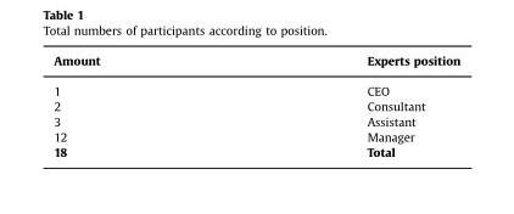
<table><thead><tr><td>Amount</td><td>Experts position</td></tr></thead><tbody><tr><td>1</td><td>CEO</td></tr><tr><td>2</td><td>Consultant</td></tr><tr><td>3</td><td>Assistant</td></tr><tr><td>12</td><td>Manager</td></tr><tr><td>18</td><td>Total</td></tr></tbody></table>